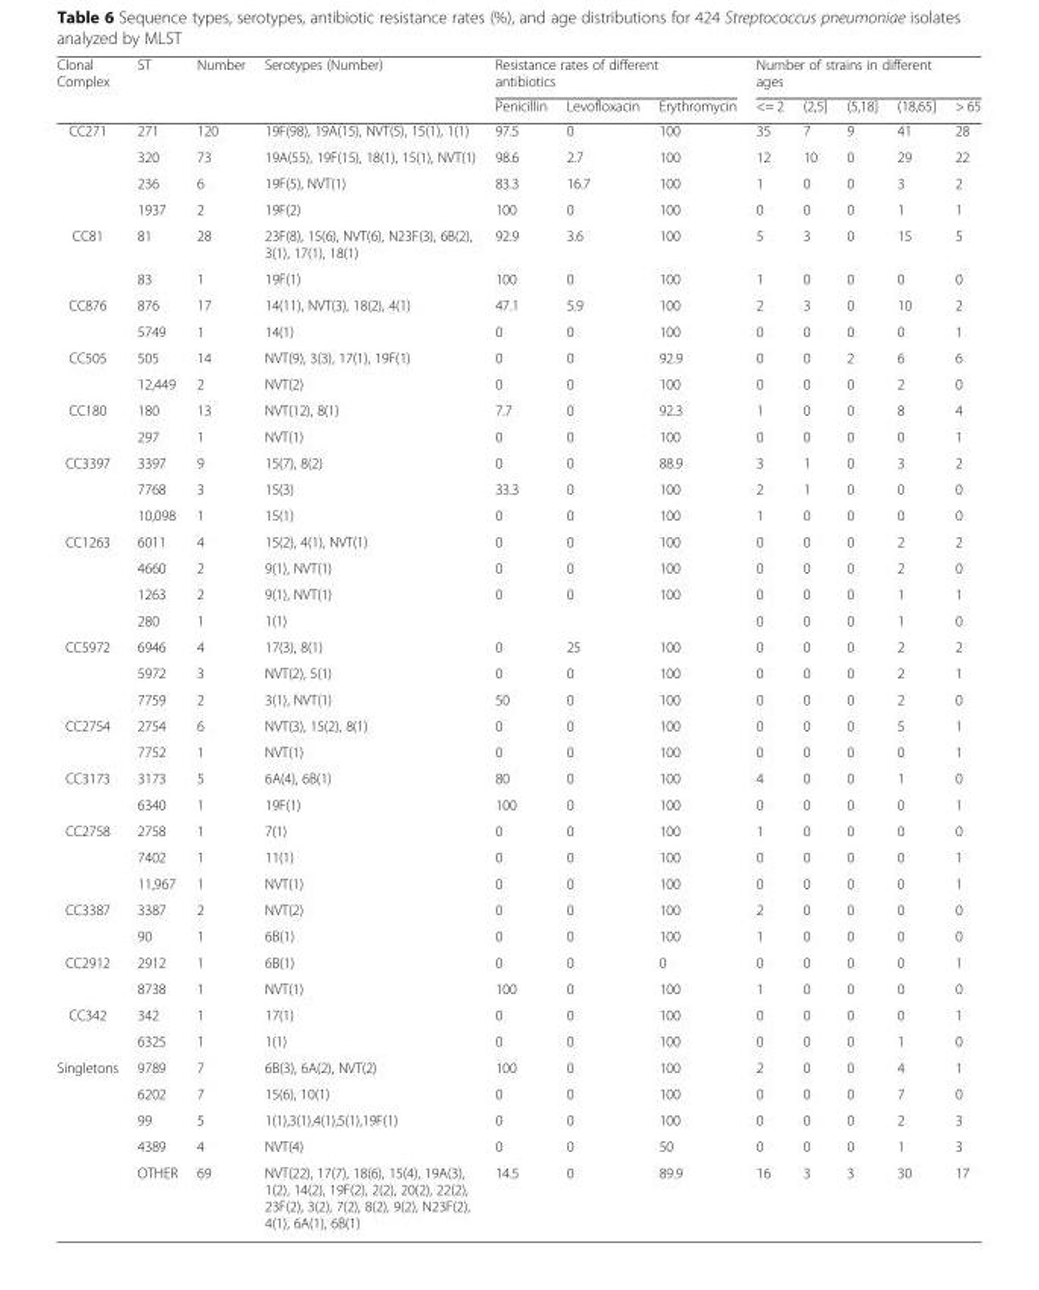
<table><thead><tr><td rowspan="2">Clonal Complex</td><td rowspan="2">ST</td><td rowspan="2">Number</td><td rowspan="2">Serotypes (Number)</td><td colspan="3">Resistance rates of different antibiotics</td><td colspan="5">Number of strains in different ages</td></tr><tr><td>Penicillin</td><td>Levofloxacin</td><td>Erythromycin</td><td>&lt;= 2</td><td>(2,5]</td><td>(5,18]</td><td>(18,65]</td><td>&gt; 65</td></tr></thead><tbody><tr><td rowspan="4">CC271</td><td>271</td><td>120</td><td>19F(98), 19A(15), NVT(5), 15(1), 1(1)</td><td>97.5</td><td>0</td><td>100</td><td>35</td><td>7</td><td>9</td><td>41</td><td>28</td></tr><tr><td>320</td><td>73</td><td>19A(55), 19F(15), 18(1), 15(1), NVT(1)</td><td>98.6</td><td>2.7</td><td>100</td><td>12</td><td>10</td><td>0</td><td>29</td><td>22</td></tr><tr><td>236</td><td>6</td><td>19F(5), NVT(1)</td><td>83.3</td><td>16.7</td><td>100</td><td>1</td><td>0</td><td>0</td><td>3</td><td>2</td></tr><tr><td>1937</td><td>2</td><td>19F(2)</td><td>100</td><td>0</td><td>100</td><td>0</td><td>0</td><td>0</td><td>1</td><td>1</td></tr><tr><td rowspan="2">CC81</td><td>81</td><td>28</td><td>23F(8), 15(6), NVT(6), N23F(3), 6B(2), 3(1), 17(1), 18(1)</td><td>92.9</td><td>3.6</td><td>100</td><td>5</td><td>3</td><td>0</td><td>15</td><td>5</td></tr><tr><td>83</td><td>1</td><td>19F(1)</td><td>100</td><td>0</td><td>100</td><td>1</td><td>0</td><td>0</td><td>0</td><td>0</td></tr><tr><td rowspan="2">CC876</td><td>876</td><td>17</td><td>14(11), NVT(3), 18(2), 4(1)</td><td>47.1</td><td>5.9</td><td>100</td><td>2</td><td>3</td><td>0</td><td>10</td><td>2</td></tr><tr><td>5749</td><td>1</td><td>14(1)</td><td>0</td><td>0</td><td>100</td><td>0</td><td>0</td><td>0</td><td>0</td><td>1</td></tr><tr><td rowspan="2">CC505</td><td>505</td><td>14</td><td>NVT(9), 3(3), 17(1), 19F(1)</td><td>0</td><td>0</td><td>92.9</td><td>0</td><td>0</td><td>2</td><td>6</td><td>6</td></tr><tr><td>12,449</td><td>2</td><td>NVT(2)</td><td>0</td><td>0</td><td>100</td><td>0</td><td>0</td><td>0</td><td>2</td><td>0</td></tr><tr><td rowspan="2">CC180</td><td>180</td><td>13</td><td>NVT(12), 8(1)</td><td>7.7</td><td>0</td><td>92.3</td><td>1</td><td>0</td><td>0</td><td>8</td><td>4</td></tr><tr><td>297</td><td>1</td><td>NVT(1)</td><td>0</td><td>0</td><td>100</td><td>0</td><td>0</td><td>0</td><td>0</td><td>1</td></tr><tr><td rowspan="3">CC3397</td><td>3397</td><td>9</td><td>15(7), 8(2)</td><td>0</td><td>0</td><td>88.9</td><td>3</td><td>1</td><td>0</td><td>3</td><td>2</td></tr><tr><td>7768</td><td>3</td><td>15(3)</td><td>33.3</td><td>0</td><td>100</td><td>2</td><td>1</td><td>0</td><td>0</td><td>0</td></tr><tr><td>10,098</td><td>1</td><td>15(1)</td><td>0</td><td>0</td><td>100</td><td>1</td><td>0</td><td>0</td><td>0</td><td>0</td></tr><tr><td rowspan="4">CC1263</td><td>6011</td><td>4</td><td>15(2), 4(1), NVT(1)</td><td>0</td><td>0</td><td>100</td><td>0</td><td>0</td><td>0</td><td>2</td><td>2</td></tr><tr><td>4660</td><td>2</td><td>9(1), NVT(1)</td><td>0</td><td>0</td><td>100</td><td>0</td><td>0</td><td>0</td><td>2</td><td>0</td></tr><tr><td>1263</td><td>2</td><td>9(1), NVT(1)</td><td>0</td><td>0</td><td>100</td><td>0</td><td>0</td><td>0</td><td>1</td><td>1</td></tr><tr><td>280</td><td>1</td><td>1(1)</td><td></td><td></td><td></td><td>0</td><td>0</td><td>0</td><td>1</td><td>0</td></tr><tr><td rowspan="3">CC5972</td><td>6946</td><td>4</td><td>17(3), 8(1)</td><td>0</td><td>25</td><td>100</td><td>0</td><td>0</td><td>0</td><td>2</td><td>2</td></tr><tr><td>5972</td><td>3</td><td>NVT(2), 5(1)</td><td>0</td><td>0</td><td>100</td><td>0</td><td>0</td><td>0</td><td>2</td><td>1</td></tr><tr><td>7759</td><td>2</td><td>3(1), NVT(1)</td><td>50</td><td>0</td><td>100</td><td>0</td><td>0</td><td>0</td><td>2</td><td>0</td></tr><tr><td rowspan="2">CC2754</td><td>2754</td><td>6</td><td>NVT(3), 15(2), 8(1)</td><td>0</td><td>0</td><td>100</td><td>0</td><td>0</td><td>0</td><td>5</td><td>1</td></tr><tr><td>7752</td><td>1</td><td>NVT(1)</td><td>0</td><td>0</td><td>100</td><td>0</td><td>0</td><td>0</td><td>0</td><td>1</td></tr><tr><td rowspan="2">CC3173</td><td>3173</td><td>5</td><td>6A(4), 6B(1)</td><td>80</td><td>0</td><td>100</td><td>4</td><td>0</td><td>0</td><td>1</td><td>0</td></tr><tr><td>6340</td><td>1</td><td>19F(1)</td><td>100</td><td>0</td><td>100</td><td>0</td><td>0</td><td>0</td><td>0</td><td>1</td></tr><tr><td rowspan="3">CC2758</td><td>2758</td><td>1</td><td>7(1)</td><td>0</td><td>0</td><td>100</td><td>1</td><td>0</td><td>0</td><td>0</td><td>0</td></tr><tr><td>7402</td><td>1</td><td>11(1)</td><td>0</td><td>0</td><td>100</td><td>0</td><td>0</td><td>0</td><td>0</td><td>1</td></tr><tr><td>11,967</td><td>1</td><td>NVT(1)</td><td>0</td><td>0</td><td>100</td><td>0</td><td>0</td><td>0</td><td>0</td><td>1</td></tr><tr><td rowspan="2">CC3387</td><td>3387</td><td>2</td><td>NVT(2)</td><td>0</td><td>0</td><td>100</td><td>2</td><td>0</td><td>0</td><td>0</td><td>0</td></tr><tr><td>90</td><td>1</td><td>6B(1)</td><td>0</td><td>0</td><td>100</td><td>1</td><td>0</td><td>0</td><td>0</td><td>0</td></tr><tr><td rowspan="2">CC2912</td><td>2912</td><td>1</td><td>6B(1)</td><td>0</td><td>0</td><td>0</td><td>0</td><td>0</td><td>0</td><td>0</td><td>1</td></tr><tr><td>8738</td><td>1</td><td>NVT(1)</td><td>100</td><td>0</td><td>100</td><td>1</td><td>0</td><td>0</td><td>0</td><td>0</td></tr><tr><td rowspan="2">CC342</td><td>342</td><td>1</td><td>17(1)</td><td>0</td><td>0</td><td>100</td><td>0</td><td>0</td><td>0</td><td>0</td><td>1</td></tr><tr><td>6325</td><td>1</td><td>1(1)</td><td>0</td><td>0</td><td>100</td><td>0</td><td>0</td><td>0</td><td>1</td><td>0</td></tr><tr><td rowspan="5">Singletons</td><td>9789</td><td>7</td><td>6B(3), 6A(2), NVT(2)</td><td>100</td><td>0</td><td>100</td><td>2</td><td>0</td><td>0</td><td>4</td><td>1</td></tr><tr><td>6202</td><td>7</td><td>15(6), 10(1)</td><td>0</td><td>0</td><td>100</td><td>0</td><td>0</td><td>0</td><td>7</td><td>0</td></tr><tr><td>99</td><td>5</td><td>1(1),3(1),4(1),5(1),19F(1)</td><td>0</td><td>0</td><td>100</td><td>0</td><td>0</td><td>0</td><td>2</td><td>3</td></tr><tr><td>4389</td><td>4</td><td>NVT(4)</td><td>0</td><td>0</td><td>50</td><td>0</td><td>0</td><td>0</td><td>1</td><td>3</td></tr><tr><td>OTHER</td><td>69</td><td>NVT(22), 17(7), 18(6), 15(4), 19A(3), 1(2), 14(2), 19F(2), 2(2), 20(2), 22(2), 23F(2), 3(2), 7(2), 8(2), 9(2), N23F(2), 4(1), 6A(1), 6B(1)</td><td>14.5</td><td>0</td><td>89.9</td><td>16</td><td>3</td><td>3</td><td>30</td><td>17</td></tr></tbody></table>